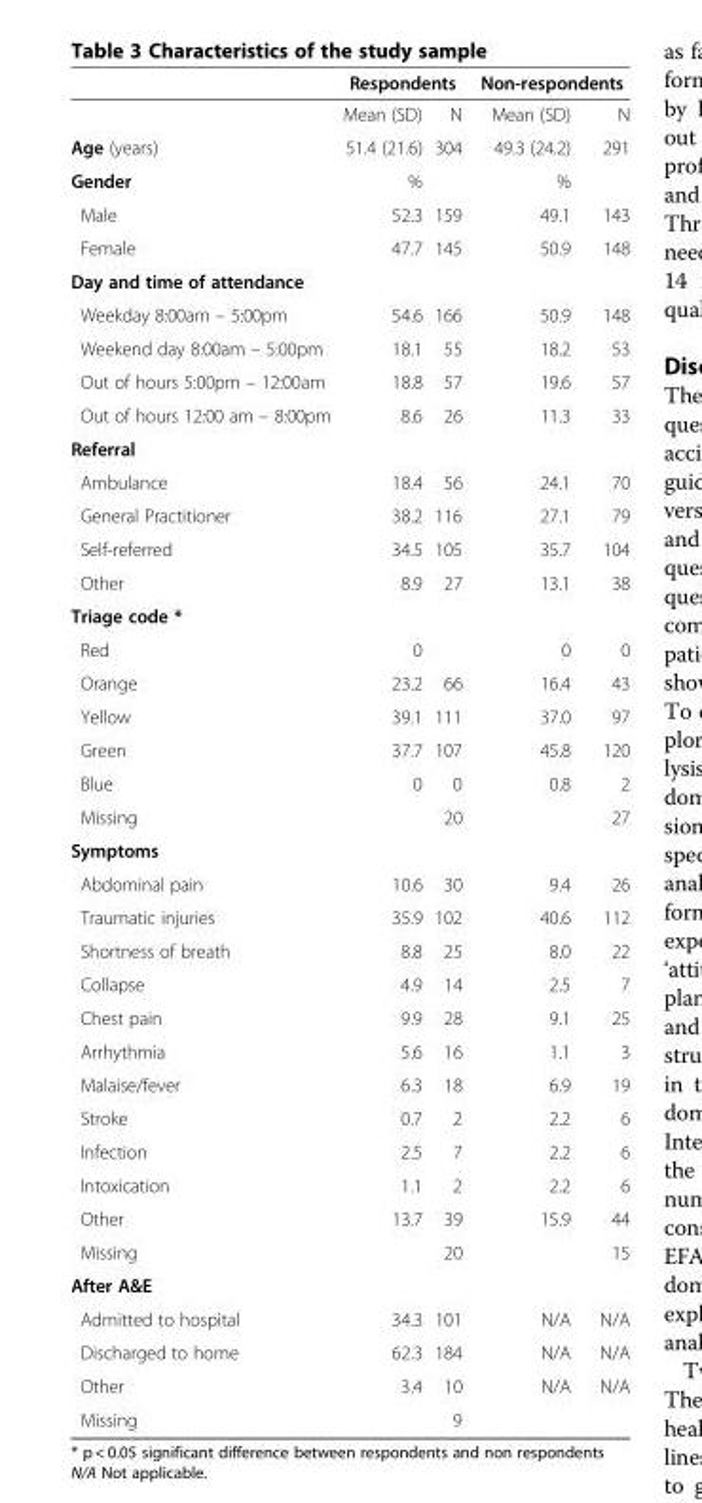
<table><thead><tr><td rowspan="2"></td><td colspan="2">Respondents</td><td colspan="2">Non-respondents</td></tr><tr><td>Mean (SD)</td><td>N</td><td>Mean (SD)</td><td>N</td></tr></thead><tbody><tr><td>Age (years)</td><td>51.4 (21.6)</td><td>304</td><td>49.3 (24.2)</td><td>291</td></tr><tr><td>Gender</td><td>%</td><td></td><td>%</td><td></td></tr><tr><td>Male</td><td>52.3</td><td>159</td><td>49.1</td><td>143</td></tr><tr><td>Female</td><td>47.7</td><td>145</td><td>50.9</td><td>148</td></tr><tr><td colspan="5">Day and time of attendance</td></tr><tr><td>Weekday 8:00am – 5:00pm</td><td>54.6</td><td>166</td><td>50.9</td><td>148</td></tr><tr><td>Weekend day 8:00am – 5:00pm</td><td>18.1</td><td>55</td><td>18.2</td><td>53</td></tr><tr><td>Out of hours 5:00pm – 12:00am</td><td>18.8</td><td>57</td><td>19.6</td><td>57</td></tr><tr><td>Out of hours 12:00 am – 8:00pm</td><td>8.6</td><td>26</td><td>11.3</td><td>33</td></tr><tr><td colspan="5">Referral</td></tr><tr><td>Ambulance</td><td>18.4</td><td>56</td><td>24.1</td><td>70</td></tr><tr><td>General Practitioner</td><td>38.2</td><td>116</td><td>27.1</td><td>79</td></tr><tr><td>Self-referred</td><td>34.5</td><td>105</td><td>35.7</td><td>104</td></tr><tr><td>Other</td><td>8.9</td><td>27</td><td>13.1</td><td>38</td></tr><tr><td colspan="5">Triage code *</td></tr><tr><td>Red</td><td>0</td><td></td><td>0</td><td>0</td></tr><tr><td>Orange</td><td>23.2</td><td>66</td><td>16.4</td><td>43</td></tr><tr><td>Yellow</td><td>39.1</td><td>111</td><td>37.0</td><td>97</td></tr><tr><td>Green</td><td>37.7</td><td>107</td><td>45.8</td><td>120</td></tr><tr><td>Blue</td><td>0</td><td>0</td><td>0.8</td><td>2</td></tr><tr><td>Missing</td><td></td><td>20</td><td></td><td>27</td></tr><tr><td colspan="5">Symptoms</td></tr><tr><td>Abdominal pain</td><td>10.6</td><td>30</td><td>9.4</td><td>26</td></tr><tr><td>Traumatic injuries</td><td>35.9</td><td>102</td><td>40.6</td><td>112</td></tr><tr><td>Shortness of breath</td><td>8.8</td><td>25</td><td>8.0</td><td>22</td></tr><tr><td>Collapse</td><td>4.9</td><td>14</td><td>2.5</td><td>7</td></tr><tr><td>Chest pain</td><td>9.9</td><td>28</td><td>9.1</td><td>25</td></tr><tr><td>Arrhythmia</td><td>5.6</td><td>16</td><td>1.1</td><td>3</td></tr><tr><td>Malaise/fever</td><td>6.3</td><td>18</td><td>6.9</td><td>19</td></tr><tr><td>Stroke</td><td>0.7</td><td>2</td><td>2.2</td><td>6</td></tr><tr><td>Infection</td><td>2.5</td><td>7</td><td>2.2</td><td>6</td></tr><tr><td>Intoxication</td><td>1.1</td><td>2</td><td>2.2</td><td>6</td></tr><tr><td>Other</td><td>13.7</td><td>39</td><td>15.9</td><td>44</td></tr><tr><td>Missing</td><td></td><td>20</td><td></td><td>15</td></tr><tr><td colspan="5">After A&amp;E</td></tr><tr><td>Admitted to hospital</td><td>34.3</td><td>101</td><td>N/A</td><td>N/A</td></tr><tr><td>Discharged to home</td><td>62.3</td><td>184</td><td>N/A</td><td>N/A</td></tr><tr><td>Other</td><td>3.4</td><td>10</td><td>N/A</td><td>N/A</td></tr><tr><td>Missing</td><td></td><td>9</td><td></td><td></td></tr></tbody></table>